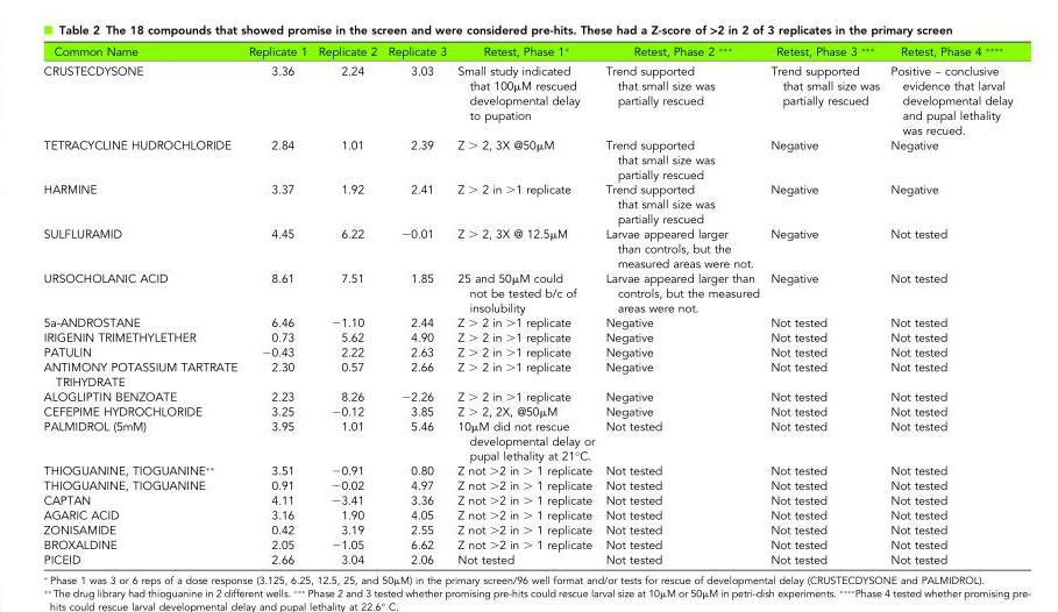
<table><thead><tr><td>Common Name</td><td>Replicate 1</td><td>Replicate 2</td><td>Replicate 3</td><td>Retest, Phase 1*</td><td>Retest, Phase 2 ***</td><td>Retest, Phase 3 ***</td><td>Retest, Phase 4 ****</td></tr></thead><tbody><tr><td>CRUSTECDYSONE</td><td>3.36</td><td>2.24</td><td>3.03</td><td>Small study indicated that 100μM rescued developmental delay to pupation</td><td>Trend supported that small size was partially rescued</td><td>Trend supported that small size was partially rescued</td><td>Positive – conclusive evidence that larval developmental delay and pupal lethality was recued.</td></tr><tr><td>TETRACYCLINE HUDROCHLORIDE</td><td>2.84</td><td>1.01</td><td>2.39</td><td>Z &gt; 2, 3X @50μM</td><td>Trend supported that small size was partially rescued</td><td>Negative</td><td>Negative</td></tr><tr><td>HARMINE</td><td>3.37</td><td>1.92</td><td>2.41</td><td>Z &gt; 2 in &gt;1 replicate</td><td>Trend supported that small size was partially rescued</td><td>Negative</td><td>Negative</td></tr><tr><td>SULFLURAMID</td><td>4.45</td><td>6.22</td><td>−0.01</td><td>Z &gt; 2, 3X @ 12.5μM</td><td>Larvae appeared larger than controls, but the measured areas were not.</td><td>Negative</td><td>Not tested</td></tr><tr><td>URSOCHOLANIC ACID</td><td>8.61</td><td>7.51</td><td>1.85</td><td>25 and 50μM could not be tested b/c of insolubility</td><td>Larvae appeared larger than controls, but the measured areas were not.</td><td>Negative</td><td>Not tested</td></tr><tr><td>5a-ANDROSTANE</td><td>6.46</td><td>−1.10</td><td>2.44</td><td>Z &gt; 2 in &gt;1 replicate</td><td>Negative</td><td>Not tested</td><td>Not tested</td></tr><tr><td>IRIGENIN TRIMETHYLETHER</td><td>0.73</td><td>5.62</td><td>4.90</td><td>Z &gt; 2 in &gt;1 replicate</td><td>Negative</td><td>Not tested</td><td>Not tested</td></tr><tr><td>PATULIN</td><td>−0.43</td><td>2.22</td><td>2.63</td><td>Z &gt; 2 in &gt;1 replicate</td><td>Negative</td><td>Not tested</td><td>Not tested</td></tr><tr><td>ANTIMONY POTASSIUM TARTRATE TRIHYDRATE</td><td>2.30</td><td>0.57</td><td>2.66</td><td>Z &gt; 2 in &gt;1 replicate</td><td>Negative</td><td>Not tested</td><td>Not tested</td></tr><tr><td>ALOGLIPTIN BENZOATE</td><td>2.23</td><td>8.26</td><td>−2.26</td><td>Z &gt; 2 in &gt;1 replicate</td><td>Negative</td><td>Not tested</td><td>Not tested</td></tr><tr><td>CEFEPIME HYDROCHLORIDE</td><td>3.25</td><td>−0.12</td><td>3.85</td><td>Z &gt; 2, 2X, @50μM</td><td>Negative</td><td>Not tested</td><td>Not tested</td></tr><tr><td>PALMIDROL (5mM)</td><td>3.95</td><td>1.01</td><td>5.46</td><td>10μM did not rescue developmental delay or pupal lethality at 21°C.</td><td>Not tested</td><td>Not tested</td><td>Not tested</td></tr><tr><td>THIOGUANINE, TIOGUANINE**</td><td>3.51</td><td>−0.91</td><td>0.80</td><td>Z not &gt;2 in &gt; 1 replicate</td><td>Not tested</td><td>Not tested</td><td>Not tested</td></tr><tr><td>THIOGUANINE, TIOGUANINE</td><td>0.91</td><td>−0.02</td><td>4.97</td><td>Z not &gt;2 in &gt; 1 replicate</td><td>Not tested</td><td>Not tested</td><td>Not tested</td></tr><tr><td>CAPTAN</td><td>4.11</td><td>−3.41</td><td>3.36</td><td>Z not &gt;2 in &gt; 1 replicate</td><td>Not tested</td><td>Not tested</td><td>Not tested</td></tr><tr><td>AGARIC ACID</td><td>3.16</td><td>1.90</td><td>4.05</td><td>Z not &gt;2 in &gt; 1 replicate</td><td>Not tested</td><td>Not tested</td><td>Not tested</td></tr><tr><td>ZONISAMIDE</td><td>0.42</td><td>3.19</td><td>2.55</td><td>Z not &gt;2 in &gt; 1 replicate</td><td>Not tested</td><td>Not tested</td><td>Not tested</td></tr><tr><td>BROXALDINE</td><td>2.05</td><td>−1.05</td><td>6.62</td><td>Z not &gt;2 in &gt; 1 replicate</td><td>Not tested</td><td>Not tested</td><td>Not tested</td></tr><tr><td>PICEID</td><td>2.66</td><td>3.04</td><td>2.06</td><td>Not tested</td><td>Not tested</td><td>Not tested</td><td>Not tested</td></tr></tbody></table>